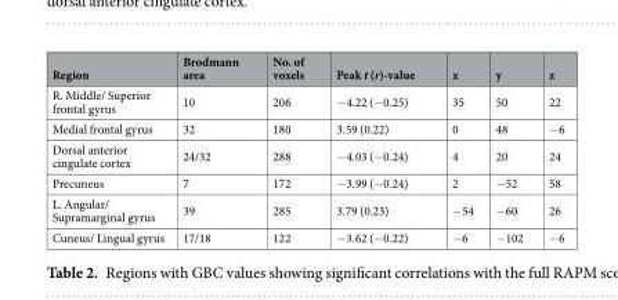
<table><thead><tr><td>Region</td><td>Brodmann area</td><td>No. of voxels</td><td>Peak t (r)-value</td><td>x</td><td>y</td><td>z</td></tr></thead><tbody><tr><td>R. Middle/ Superior frontal gyrus</td><td>10</td><td>206</td><td>−4.22 (−0.25)</td><td>35</td><td>50</td><td>22</td></tr><tr><td>Medial frontal gyrus</td><td>32</td><td>180</td><td>3.59 (0.22)</td><td>0</td><td>48</td><td>−6</td></tr><tr><td>Dorsal anterior cingulate cortex</td><td>24/32</td><td>288</td><td>−4.03 (−0.24)</td><td>4</td><td>20</td><td>24</td></tr><tr><td>Precuneus</td><td>7</td><td>172</td><td>−3.99 (−0.24)</td><td>2</td><td>−52</td><td>58</td></tr><tr><td>L. Angular/ Supramarginal gyrus</td><td>39</td><td>285</td><td>3.79 (0.23)</td><td>−54</td><td>−60</td><td>26</td></tr><tr><td>Cuneus/ Lingual gyrus</td><td>17/18</td><td>122</td><td>−3.62 (−0.22)</td><td>−6</td><td>−102</td><td>−6</td></tr></tbody></table>